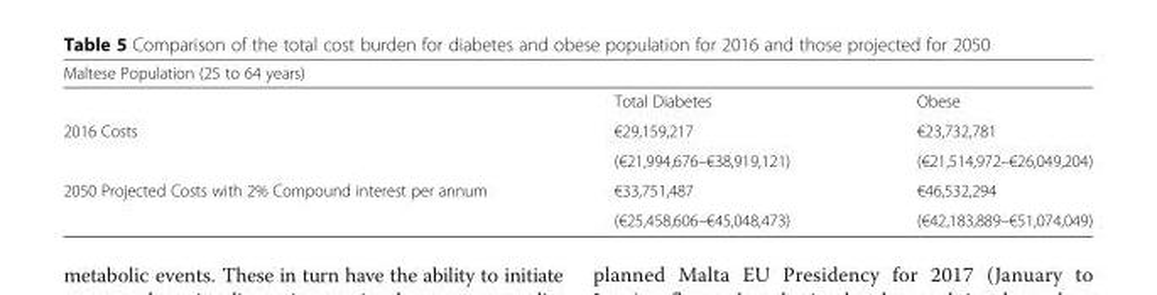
<table><thead><tr><td colspan="3">Maltese Population (25 to 64 years)</td></tr><tr><td></td><td>Total Diabetes</td><td>Obese</td></tr></thead><tbody><tr><td rowspan="2">2016 Costs</td><td>€29,159,217</td><td>€23,732,781</td></tr><tr><td>(€21,994,676–€38,919,121)</td><td>(€21,514,972–€26,049,204)</td></tr><tr><td rowspan="2">2050 Projected Costs with 2% Compound interest per annum</td><td>€33,751,487</td><td>€46,532,294</td></tr><tr><td>(€25,458,606–€45,048,473)</td><td>(€42,183,889–€51,074,049)</td></tr></tbody></table>